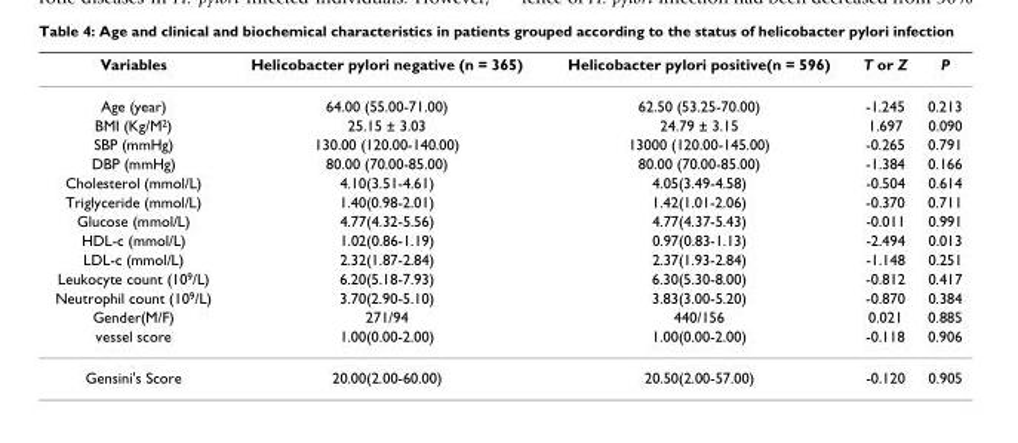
<table><thead><tr><td>Variables</td><td>Helicobacter pylori negative (n = 365)</td><td>Helicobacter pylori positive(n = 596)</td><td>T or Z</td><td>P</td></tr></thead><tbody><tr><td>Age (year)</td><td>64.00 (55.00-71.00)</td><td>62.50 (53.25-70.00)</td><td>-1.245</td><td>0.213</td></tr><tr><td>BMI (Kg/M<sup>2</sup>)</td><td>25.15 ± 3.03</td><td>24.79 ± 3.15</td><td>1.697</td><td>0.090</td></tr><tr><td>SBP (mmHg)</td><td>130.00 (120.00-140.00)</td><td>13000 (120.00-145.00)</td><td>-0.265</td><td>0.791</td></tr><tr><td>DBP (mmHg)</td><td>80.00 (70.00-85.00)</td><td>80.00 (70.00-85.00)</td><td>-1.384</td><td>0.166</td></tr><tr><td>Cholesterol (mmol/L)</td><td>4.10(3.51-4.61)</td><td>4.05(3.49-4.58)</td><td>-0.504</td><td>0.614</td></tr><tr><td>Triglyceride (mmol/L)</td><td>1.40(0.98-2.01)</td><td>1.42(1.01-2.06)</td><td>-0.370</td><td>0.711</td></tr><tr><td>Glucose (mmol/L)</td><td>4.77(4.32-5.56)</td><td>4.77(4.37-5.43)</td><td>-0.011</td><td>0.991</td></tr><tr><td>HDL-c (mmol/L)</td><td>1.02(0.86-1.19)</td><td>0.97(0.83-1.13)</td><td>-2.494</td><td>0.013</td></tr><tr><td>LDL-c (mmol/L)</td><td>2.32(1.87-2.84)</td><td>2.37(1.93-2.84)</td><td>-1.148</td><td>0.251</td></tr><tr><td>Leukocyte count (10<sup>9</sup>/L)</td><td>6.20(5.18-7.93)</td><td>6.30(5.30-8.00)</td><td>-0.812</td><td>0.417</td></tr><tr><td>Neutrophil count (10<sup>9</sup>/L)</td><td>3.70(2.90-5.10)</td><td>3.83(3.00-5.20)</td><td>-0.870</td><td>0.384</td></tr><tr><td>Gender(M/F)</td><td>271/94</td><td>440/156</td><td>0.021</td><td>0.885</td></tr><tr><td>vessel score</td><td>1.00(0.00-2.00)</td><td>1.00(0.00-2.00)</td><td>-0.118</td><td>0.906</td></tr><tr><td>Gensini&#x27;s Score</td><td>20.00(2.00-60.00)</td><td>20.50(2.00-57.00)</td><td>-0.120</td><td>0.905</td></tr></tbody></table>